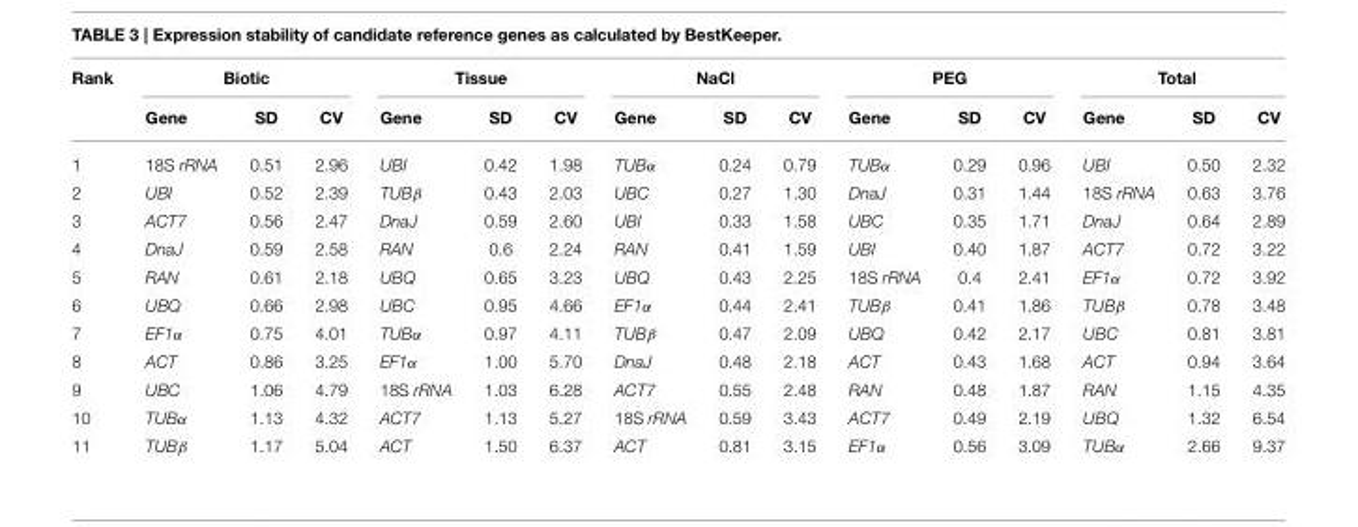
<table><thead><tr><td rowspan="2">Rank</td><td colspan="3">Biotic</td><td colspan="3">Tissue</td><td colspan="3">NaCl</td><td colspan="3">PEG</td><td colspan="3">Total</td></tr><tr><td>Gene</td><td>SD</td><td>CV</td><td>Gene</td><td>SD</td><td>CV</td><td>Gene</td><td>SD</td><td>CV</td><td>Gene</td><td>SD</td><td>CV</td><td>Gene</td><td>SD</td><td>CV</td></tr></thead><tbody><tr><td>1</td><td>18S rRNA</td><td>0.51</td><td>2.96</td><td>UBI</td><td>0.42</td><td>1.98</td><td>TUBα</td><td>0.24</td><td>0.79</td><td>TUBα</td><td>0.29</td><td>0.96</td><td>UBI</td><td>0.50</td><td>2.32</td></tr><tr><td>2</td><td>UBI</td><td>0.52</td><td>2.39</td><td>TUBβ</td><td>0.43</td><td>2.03</td><td>UBC</td><td>0.27</td><td>1.30</td><td>DnaJ</td><td>0.31</td><td>1.44</td><td>18S rRNA</td><td>0.63</td><td>3.76</td></tr><tr><td>3</td><td>ACT7</td><td>0.56</td><td>2.47</td><td>DnaJ</td><td>0.59</td><td>2.60</td><td>UBI</td><td>0.33</td><td>1.58</td><td>UBC</td><td>0.35</td><td>1.71</td><td>DnaJ</td><td>0.64</td><td>2.89</td></tr><tr><td>4</td><td>DnaJ</td><td>0.59</td><td>2.58</td><td>RAN</td><td>0.6</td><td>2.24</td><td>RAN</td><td>0.41</td><td>1.59</td><td>UBI</td><td>0.40</td><td>1.87</td><td>ACT7</td><td>0.72</td><td>3.22</td></tr><tr><td>5</td><td>RAN</td><td>0.61</td><td>2.18</td><td>UBQ</td><td>0.65</td><td>3.23</td><td>UBQ</td><td>0.43</td><td>2.25</td><td>18S rRNA</td><td>0.4</td><td>2.41</td><td>EF1α</td><td>0.72</td><td>3.92</td></tr><tr><td>6</td><td>UBQ</td><td>0.66</td><td>2.98</td><td>UBC</td><td>0.95</td><td>4.66</td><td>EF1α</td><td>0.44</td><td>2.41</td><td>TUBβ</td><td>0.41</td><td>1.86</td><td>TUBβ</td><td>0.78</td><td>3.48</td></tr><tr><td>7</td><td>EF1α</td><td>0.75</td><td>4.01</td><td>TUBα</td><td>0.97</td><td>4.11</td><td>TUBβ</td><td>0.47</td><td>2.09</td><td>UBQ</td><td>0.42</td><td>2.17</td><td>UBC</td><td>0.81</td><td>3.81</td></tr><tr><td>8</td><td>ACT</td><td>0.86</td><td>3.25</td><td>EF1α</td><td>1.00</td><td>5.70</td><td>DnaJ</td><td>0.48</td><td>2.18</td><td>ACT</td><td>0.43</td><td>1.68</td><td>ACT</td><td>0.94</td><td>3.64</td></tr><tr><td>9</td><td>UBC</td><td>1.06</td><td>4.79</td><td>18S rRNA</td><td>1.03</td><td>6.28</td><td>ACT7</td><td>0.55</td><td>2.48</td><td>RAN</td><td>0.48</td><td>1.87</td><td>RAN</td><td>1.15</td><td>4.35</td></tr><tr><td>10</td><td>TUBα</td><td>1.13</td><td>4.32</td><td>ACT7</td><td>1.13</td><td>5.27</td><td>18S rRNA</td><td>0.59</td><td>3.43</td><td>ACT7</td><td>0.49</td><td>2.19</td><td>UBQ</td><td>1.32</td><td>6.54</td></tr><tr><td>11</td><td>TUBβ</td><td>1.17</td><td>5.04</td><td>ACT</td><td>1.50</td><td>6.37</td><td>ACT</td><td>0.81</td><td>3.15</td><td>EF1α</td><td>0.56</td><td>3.09</td><td>TUBα</td><td>2.66</td><td>9.37</td></tr></tbody></table>